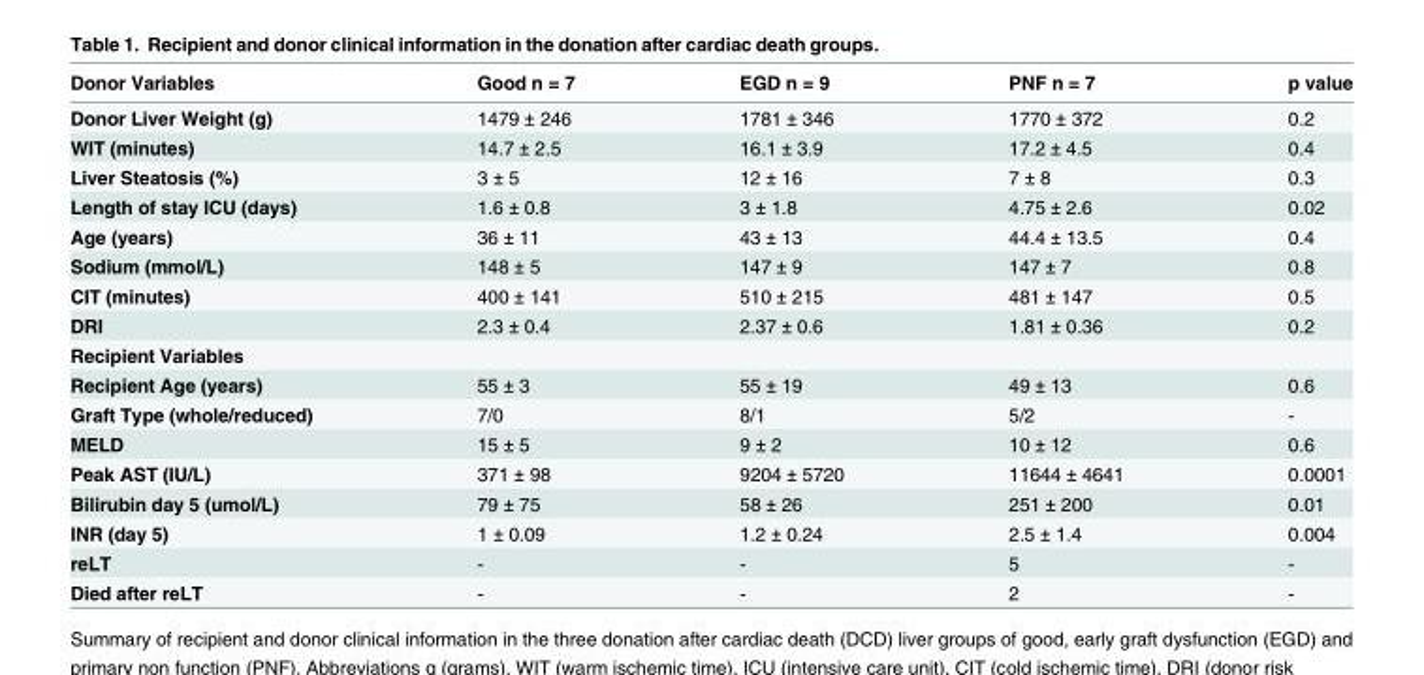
<table><thead><tr><td>Donor Variables</td><td>Good n = 7</td><td>EGD n = 9</td><td>PNF n = 7</td><td>p value</td></tr></thead><tbody><tr><td>Donor Liver Weight (g)</td><td>1479 ± 246</td><td>1781 ± 346</td><td>1770 ± 372</td><td>0.2</td></tr><tr><td>WIT (minutes)</td><td>14.7 ± 2.5</td><td>16.1 ± 3.9</td><td>17.2 ± 4.5</td><td>0.4</td></tr><tr><td>Liver Steatosis (%)</td><td>3 ± 5</td><td>12 ± 16</td><td>7 ± 8</td><td>0.3</td></tr><tr><td>Length of stay ICU (days)</td><td>1.6 ± 0.8</td><td>3 ± 1.8</td><td>4.75 ± 2.6</td><td>0.02</td></tr><tr><td>Age (years)</td><td>36 ± 11</td><td>43 ± 13</td><td>44.4 ± 13.5</td><td>0.4</td></tr><tr><td>Sodium (mmol/L)</td><td>148 ± 5</td><td>147 ± 9</td><td>147 ± 7</td><td>0.8</td></tr><tr><td>CIT (minutes)</td><td>400 ± 141</td><td>510 ± 215</td><td>481 ± 147</td><td>0.5</td></tr><tr><td>DRI</td><td>2.3 ± 0.4</td><td>2.37 ± 0.6</td><td>1.81 ± 0.36</td><td>0.2</td></tr><tr><td colspan="5">Recipient Variables</td></tr><tr><td>Recipient Age (years)</td><td>55 ± 3</td><td>55 ± 19</td><td>49 ± 13</td><td>0.6</td></tr><tr><td>Graft Type (whole/reduced)</td><td>7/0</td><td>8/1</td><td>5/2</td><td>-</td></tr><tr><td>MELD</td><td>15 ± 5</td><td>9 ± 2</td><td>10 ± 12</td><td>0.6</td></tr><tr><td>Peak AST (IU/L)</td><td>371 ± 98</td><td>9204 ± 5720</td><td>11644 ± 4641</td><td>0.0001</td></tr><tr><td>Bilirubin day 5 (umol/L)</td><td>79 ± 75</td><td>58 ± 26</td><td>251 ± 200</td><td>0.01</td></tr><tr><td>INR (day 5)</td><td>1 ± 0.09</td><td>1.2 ± 0.24</td><td>2.5 ± 1.4</td><td>0.004</td></tr><tr><td>reLT</td><td>-</td><td>-</td><td>5</td><td>-</td></tr><tr><td>Died after reLT</td><td>-</td><td>-</td><td>2</td><td>-</td></tr></tbody></table>